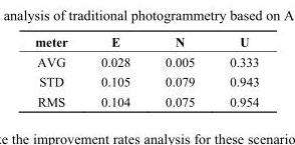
<table><thead><tr><td>meter</td><td>E</td><td>N</td><td>U</td></tr></thead><tbody><tr><td>AVG</td><td>0.028</td><td>0.005</td><td>0.333</td></tr><tr><td>STD</td><td>0.105</td><td>0.079</td><td>0.943</td></tr><tr><td>RMS</td><td>0.104</td><td>0.075</td><td>0.954</td></tr></tbody></table>